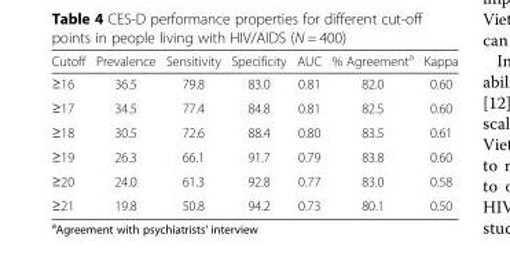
<table><thead><tr><td>Cutoff</td><td>Prevalence</td><td>Sensitivity</td><td>Specificity</td><td>AUC</td><td>% Agreement<sup>a</sup></td><td>Kappa</td></tr></thead><tbody><tr><td>≥16</td><td>36.5</td><td>79.8</td><td>83.0</td><td>0.81</td><td>82.0</td><td>0.60</td></tr><tr><td>≥17</td><td>34.5</td><td>77.4</td><td>84.8</td><td>0.81</td><td>82.5</td><td>0.60</td></tr><tr><td>≥18</td><td>30.5</td><td>72.6</td><td>88.4</td><td>0.80</td><td>83.5</td><td>0.61</td></tr><tr><td>≥19</td><td>26.3</td><td>66.1</td><td>91.7</td><td>0.79</td><td>83.8</td><td>0.60</td></tr><tr><td>≥20</td><td>24.0</td><td>61.3</td><td>92.8</td><td>0.77</td><td>83.0</td><td>0.58</td></tr><tr><td>≥21</td><td>19.8</td><td>50.8</td><td>94.2</td><td>0.73</td><td>80.1</td><td>0.50</td></tr></tbody></table>